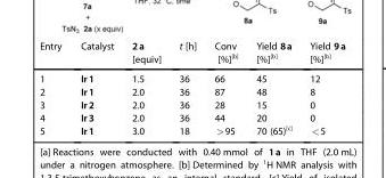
<table><thead><tr><td>Entry</td><td>Catalyst</td><td>2a [equiv]</td><td>t [h]</td><td>Conv [%]<sup>[b]</sup></td><td>Yield 8a [%]<sup>[b]</sup></td><td>Yield 9a [%]<sup>[b]</sup></td></tr></thead><tbody><tr><td>1</td><td>Ir1</td><td>1.5</td><td>36</td><td>66</td><td>45</td><td>12</td></tr><tr><td>2</td><td>Ir1</td><td>2.0</td><td>36</td><td>87</td><td>48</td><td>8</td></tr><tr><td>3</td><td>Ir2</td><td>2.0</td><td>36</td><td>28</td><td>15</td><td>0</td></tr><tr><td>4</td><td>Ir3</td><td>2.0</td><td>36</td><td>44</td><td>20</td><td>0</td></tr><tr><td>5</td><td>Ir1</td><td>3.0</td><td>18</td><td>&gt;95</td><td>70 (65)<sup>[c]</sup></td><td>&lt;5</td></tr></tbody></table>